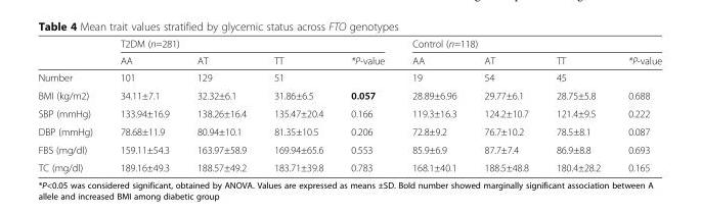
<table><thead><tr><td rowspan="2"></td><td colspan="4">T2DM (n=281)</td><td colspan="4">Control (n=118)</td></tr><tr><td>AA</td><td>AT</td><td>TT</td><td>*P-value</td><td>AA</td><td>AT</td><td>TT</td><td>*P-value</td></tr></thead><tbody><tr><td>Number</td><td>101</td><td>129</td><td>51</td><td></td><td>19</td><td>54</td><td>45</td><td></td></tr><tr><td>BMI (kg/m2)</td><td>34.11±7.1</td><td>32.32±6.1</td><td>31.86±6.5</td><td>0.057</td><td>28.89±6.96</td><td>29.77±6.1</td><td>28.75±5.8</td><td>0.688</td></tr><tr><td>SBP (mmHg)</td><td>133.94±16.9</td><td>138.26±16.4</td><td>135.47±20.4</td><td>0.166</td><td>119.3±16.3</td><td>124.2±10.7</td><td>121.4±9.5</td><td>0.222</td></tr><tr><td>DBP (mmHg)</td><td>78.68±11.9</td><td>80.94±10.1</td><td>81.35±10.5</td><td>0.206</td><td>72.8±9.2</td><td>76.7±10.2</td><td>78.5±8.1</td><td>0.087</td></tr><tr><td>FBS (mg/dl)</td><td>159.11±54.3</td><td>163.97±58.9</td><td>169.94±65.6</td><td>0.553</td><td>85.9±6.9</td><td>87.7±7.4</td><td>86.9±8.8</td><td>0.693</td></tr><tr><td>TC (mg/dl)</td><td>189.16±49.3</td><td>188.57±49.2</td><td>183.71±39.8</td><td>0.783</td><td>168.1±40.1</td><td>188.5±48.8</td><td>180.4±28.2</td><td>0.165</td></tr></tbody></table>